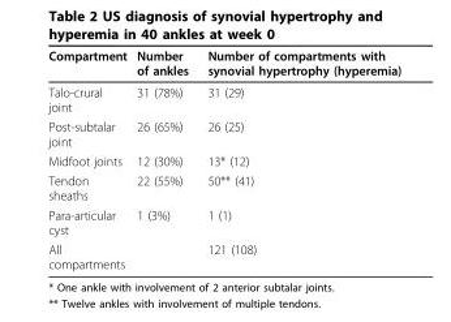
<table><thead><tr><td>Compartment</td><td>Number of ankles</td><td>Number of compartments with synovial hypertrophy (hyperemia)</td></tr></thead><tbody><tr><td>Talo-crural joint</td><td>31 (78%)</td><td>31 (29)</td></tr><tr><td>Post-subtalar joint</td><td>26 (65%)</td><td>26 (25)</td></tr><tr><td>Midfoot joints</td><td>12 (30%)</td><td>13* (12)</td></tr><tr><td>Tendon sheaths</td><td>22 (55%)</td><td>50** (41)</td></tr><tr><td>Para-articular cyst</td><td>1 (3%)</td><td>1 (1)</td></tr><tr><td>All compartments</td><td></td><td>121 (108)</td></tr></tbody></table>